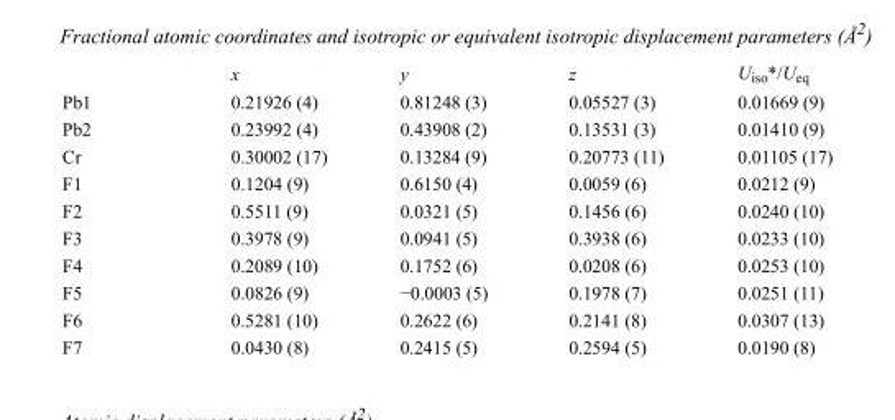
<table><thead><tr><td></td><td>x</td><td>y</td><td>z</td><td>U<sub>iso</sub>*/U<sub>eq</sub></td></tr></thead><tbody><tr><td>Pb1</td><td>0.21926 (4)</td><td>0.81248 (3)</td><td>0.05527 (3)</td><td>0.01669 (9)</td></tr><tr><td>Pb2</td><td>0.23992 (4)</td><td>0.43908 (2)</td><td>0.13531 (3)</td><td>0.01410 (9)</td></tr><tr><td>Cr</td><td>0.30002 (17)</td><td>0.13284 (9)</td><td>0.20773 (11)</td><td>0.01105 (17)</td></tr><tr><td>F1</td><td>0.1204 (9)</td><td>0.6150 (4)</td><td>0.0059 (6)</td><td>0.0212 (9)</td></tr><tr><td>F2</td><td>0.5511 (9)</td><td>0.0321 (5)</td><td>0.1456 (6)</td><td>0.0240 (10)</td></tr><tr><td>F3</td><td>0.3978 (9)</td><td>0.0941 (5)</td><td>0.3938 (6)</td><td>0.0233 (10)</td></tr><tr><td>F4</td><td>0.2089 (10)</td><td>0.1752 (6)</td><td>0.0208 (6)</td><td>0.0253 (10)</td></tr><tr><td>F5</td><td>0.0826 (9)</td><td>−0.0003 (5)</td><td>0.1978 (7)</td><td>0.0251 (11)</td></tr><tr><td>F6</td><td>0.5281 (10)</td><td>0.2622 (6)</td><td>0.2141 (8)</td><td>0.0307 (13)</td></tr><tr><td>F7</td><td>0.0430 (8)</td><td>0.2415 (5)</td><td>0.2594 (5)</td><td>0.0190 (8)</td></tr></tbody></table>